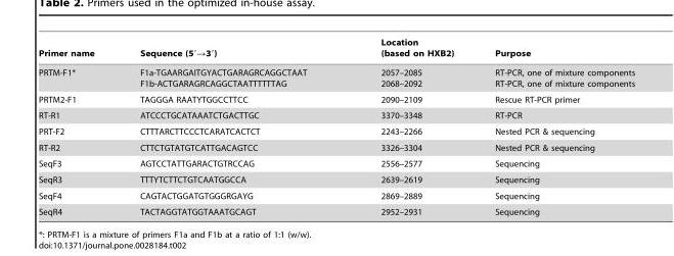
<table><thead><tr><td>Primer name</td><td>Sequence (5′→3′)</td><td>Location (based on HXB2)</td><td>Purpose</td></tr></thead><tbody><tr><td>PRTM-F1*</td><td>F1a-TGAARGAITGYACTGARAGRCAGGCTAAT F1b-ACTGARAGRCAGGCTAATTTTTTAG</td><td>2057–2085 2068–2092</td><td>RT-PCR, one of mixture components RT-PCR, one of mixture components</td></tr><tr><td>PRTM2-F1</td><td>TAGGGA RAATYTGGCCTTCC</td><td>2090–2109</td><td>Rescue RT-PCR primer</td></tr><tr><td>RT-R1</td><td>ATCCCTGCATAAATCTGACTTGC</td><td>3370–3348</td><td>RT-PCR</td></tr><tr><td>PRT-F2</td><td>CTTTARCTTCCCTCARATCACTCT</td><td>2243–2266</td><td>Nested PCR &amp; sequencing</td></tr><tr><td>RT-R2</td><td>CTTCTGTATGTCATTGACAGTCC</td><td>3326–3304</td><td>Nested PCR &amp; sequencing</td></tr><tr><td>SeqF3</td><td>AGTCCTATTGARACTGTRCCAG</td><td>2556–2577</td><td>Sequencing</td></tr><tr><td>SeqR3</td><td>TTTYTCTTCTGTCAATGGCCA</td><td>2639–2619</td><td>Sequencing</td></tr><tr><td>SeqF4</td><td>CAGTACTGGATGTGGGRGAYG</td><td>2869–2889</td><td>Sequencing</td></tr><tr><td>SeqR4</td><td>TACTAGGTATGGTAAATGCAGT</td><td>2952–2931</td><td>Sequencing</td></tr></tbody></table>